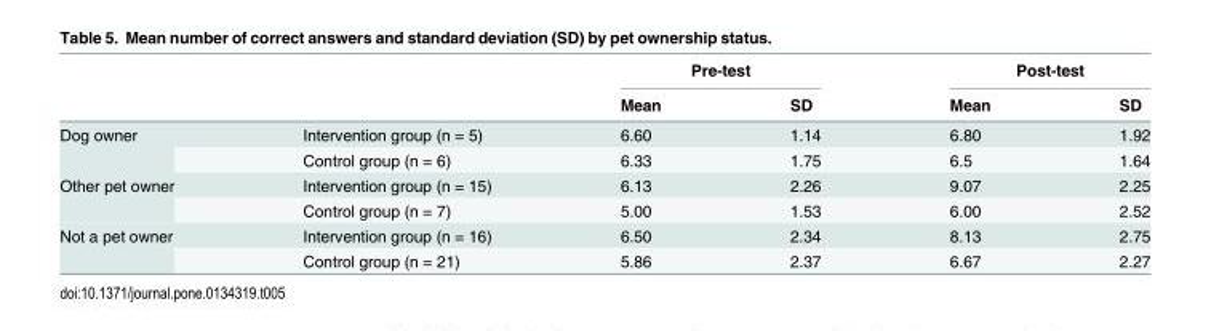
<table><thead><tr><td rowspan="2"></td><td rowspan="2"></td><td colspan="2">Pre-test</td><td colspan="2">Post-test</td></tr><tr><td>Mean</td><td>SD</td><td>Mean</td><td>SD</td></tr></thead><tbody><tr><td rowspan="2">Dog owner</td><td>Intervention group (n = 5)</td><td>6.60</td><td>1.14</td><td>6.80</td><td>1.92</td></tr><tr><td>Control group (n = 6)</td><td>6.33</td><td>1.75</td><td>6.5</td><td>1.64</td></tr><tr><td rowspan="2">Other pet owner</td><td>Intervention group (n = 15)</td><td>6.13</td><td>2.26</td><td>9.07</td><td>2.25</td></tr><tr><td>Control group (n = 7)</td><td>5.00</td><td>1.53</td><td>6.00</td><td>2.52</td></tr><tr><td rowspan="2">Not a pet owner</td><td>Intervention group (n = 16)</td><td>6.50</td><td>2.34</td><td>8.13</td><td>2.75</td></tr><tr><td>Control group (n = 21)</td><td>5.86</td><td>2.37</td><td>6.67</td><td>2.27</td></tr></tbody></table>